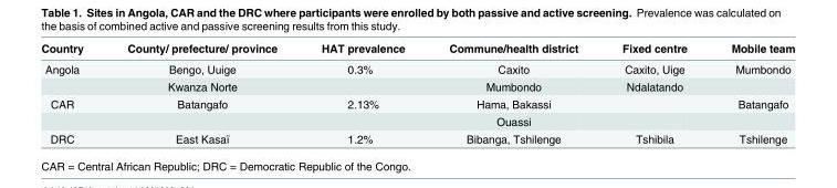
<table><thead><tr><td>Country</td><td>County/ prefecture/ province</td><td>HAT prevalence</td><td>Commune/health district</td><td>Fixed centre</td><td>Mobile team</td></tr></thead><tbody><tr><td rowspan="2">Angola</td><td>Bengo, Uuige</td><td>0.3%</td><td>Caxito</td><td>Caxito, Uige</td><td>Mumbondo</td></tr><tr><td>Kwanza Norte</td><td></td><td>Mumbondo</td><td>Ndalatando</td><td></td></tr><tr><td rowspan="2">CAR</td><td>Batangafo</td><td>2.13%</td><td>Hama, Bakassi</td><td></td><td>Batangafo</td></tr><tr><td></td><td></td><td>Ouassi</td><td></td><td></td></tr><tr><td>DRC</td><td>East Kasaï</td><td>1.2%</td><td>Bibanga, Tshilenge</td><td>Tshibila</td><td>Tshilenge</td></tr></tbody></table>